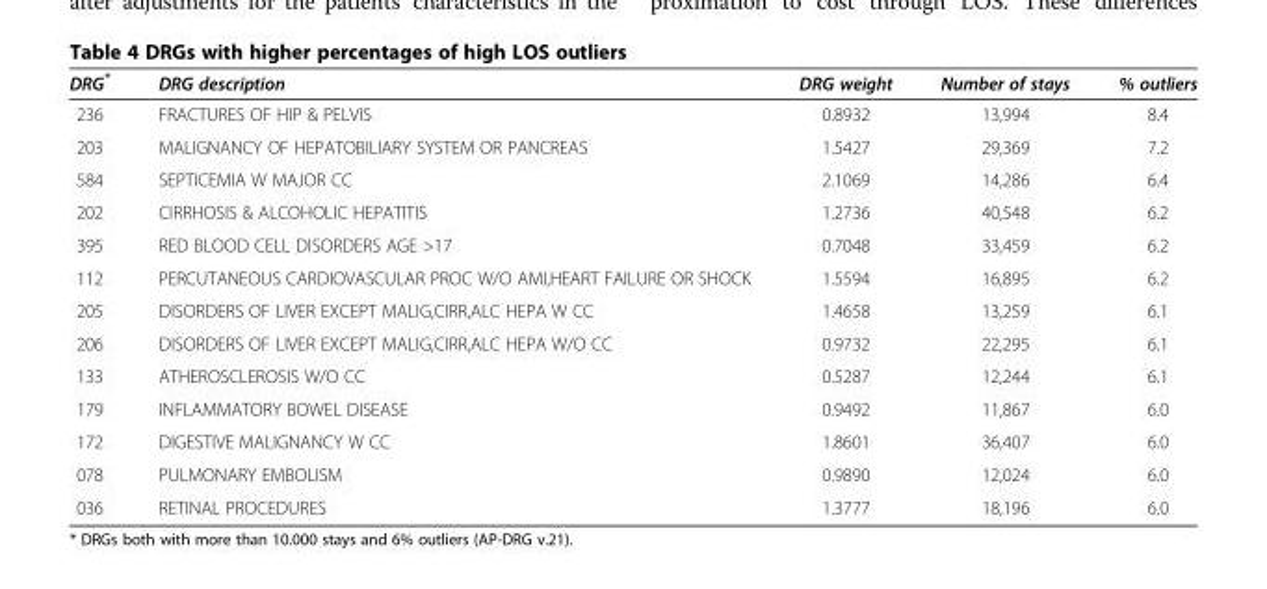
<table><thead><tr><td>DRG*</td><td>DRG description</td><td>DRG weight</td><td>Number of stays</td><td>% outliers</td></tr></thead><tbody><tr><td>236</td><td>FRACTURES OF HIP &amp; PELVIS</td><td>0.8932</td><td>13,994</td><td>8.4</td></tr><tr><td>203</td><td>MALIGNANCY OF HEPATOBILIARY SYSTEM OR PANCREAS</td><td>1.5427</td><td>29,369</td><td>7.2</td></tr><tr><td>584</td><td>SEPTICEMIA W MAJOR CC</td><td>2.1069</td><td>14,286</td><td>6.4</td></tr><tr><td>202</td><td>CIRRHOSIS &amp; ALCOHOLIC HEPATITIS</td><td>1.2736</td><td>40,548</td><td>6.2</td></tr><tr><td>395</td><td>RED BLOOD CELL DISORDERS AGE &gt;17</td><td>0.7048</td><td>33,459</td><td>6.2</td></tr><tr><td>112</td><td>PERCUTANEOUS CARDIOVASCULAR PROC W/O AMI,HEART FAILURE OR SHOCK</td><td>1.5594</td><td>16,895</td><td>6.2</td></tr><tr><td>205</td><td>DISORDERS OF LIVER EXCEPT MALIG,CIRR,ALC HEPA W CC</td><td>1.4658</td><td>13,259</td><td>6.1</td></tr><tr><td>206</td><td>DISORDERS OF LIVER EXCEPT MALIG,CIRR,ALC HEPA W/O CC</td><td>0.9732</td><td>22,295</td><td>6.1</td></tr><tr><td>133</td><td>ATHEROSCLEROSIS W/O CC</td><td>0.5287</td><td>12,244</td><td>6.1</td></tr><tr><td>179</td><td>INFLAMMATORY BOWEL DISEASE</td><td>0.9492</td><td>11,867</td><td>6.0</td></tr><tr><td>172</td><td>DIGESTIVE MALIGNANCY W CC</td><td>1.8601</td><td>36,407</td><td>6.0</td></tr><tr><td>078</td><td>PULMONARY EMBOLISM</td><td>0.9890</td><td>12,024</td><td>6.0</td></tr><tr><td>036</td><td>RETINAL PROCEDURES</td><td>1.3777</td><td>18,196</td><td>6.0</td></tr></tbody></table>